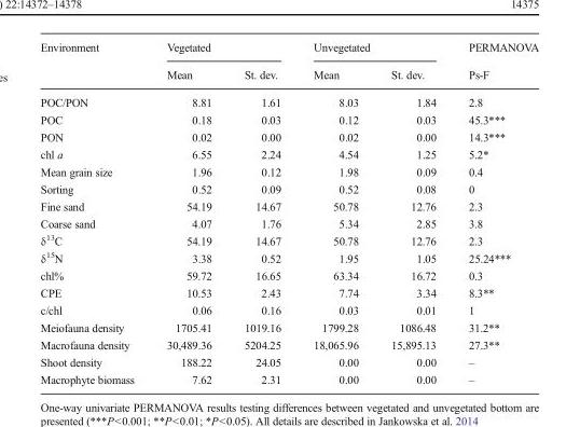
<table><thead><tr><td rowspan="2">Environment</td><td colspan="2">Vegetated</td><td colspan="2">Unvegetated</td><td rowspan="2">PERMANOVA Ps-F</td></tr><tr><td>Mean</td><td>St. dev.</td><td>Mean</td><td>St. dev.</td></tr></thead><tbody><tr><td>POC/PON</td><td>8.81</td><td>1.61</td><td>8.03</td><td>1.84</td><td>2.8</td></tr><tr><td>POC</td><td>0.18</td><td>0.03</td><td>0.12</td><td>0.03</td><td>45.3***</td></tr><tr><td>PON</td><td>0.02</td><td>0.00</td><td>0.02</td><td>0.00</td><td>14.3***</td></tr><tr><td>chl a</td><td>6.55</td><td>2.24</td><td>4.54</td><td>1.25</td><td>5.2*</td></tr><tr><td>Mean grain size</td><td>1.96</td><td>0.12</td><td>1.98</td><td>0.09</td><td>0.4</td></tr><tr><td>Sorting</td><td>0.52</td><td>0.09</td><td>0.52</td><td>0.08</td><td>0</td></tr><tr><td>Fine sand</td><td>54.19</td><td>14.67</td><td>50.78</td><td>12.76</td><td>2.3</td></tr><tr><td>Coarse sand</td><td>4.07</td><td>1.76</td><td>5.34</td><td>2.85</td><td>3.8</td></tr><tr><td>δ<sup>13</sup>C</td><td>54.19</td><td>14.67</td><td>50.78</td><td>12.76</td><td>2.3</td></tr><tr><td>δ<sup>15</sup>N</td><td>3.38</td><td>0.52</td><td>1.95</td><td>1.05</td><td>25.24***</td></tr><tr><td>chl%</td><td>59.72</td><td>16.65</td><td>63.34</td><td>16.72</td><td>0.3</td></tr><tr><td>CPE</td><td>10.53</td><td>2.43</td><td>7.74</td><td>3.34</td><td>8.3**</td></tr><tr><td>c/chl</td><td>0.06</td><td>0.16</td><td>0.03</td><td>0.01</td><td>1</td></tr><tr><td>Meiofauna density</td><td>1705.41</td><td>1019.16</td><td>1799.28</td><td>1086.48</td><td>31.2**</td></tr><tr><td>Macrofauna density</td><td>30,489.36</td><td>5204.25</td><td>18,065.96</td><td>15,895.13</td><td>27.3**</td></tr><tr><td>Shoot density</td><td>188.22</td><td>24.05</td><td>0.00</td><td>0.00</td><td>–</td></tr><tr><td>Macrophyte biomass</td><td>7.62</td><td>2.31</td><td>0.00</td><td>0.00</td><td>–</td></tr></tbody></table>